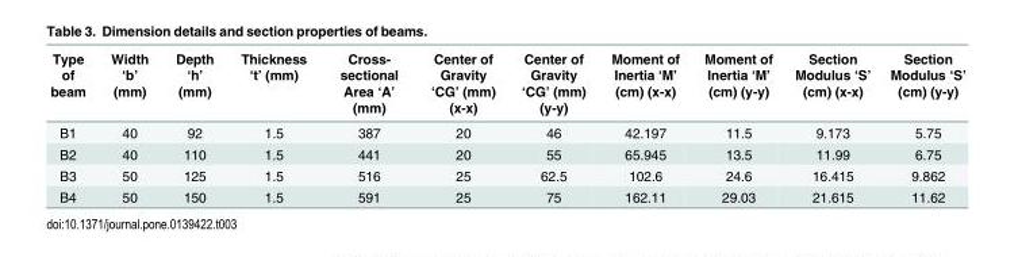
<table><thead><tr><td>Type of beam</td><td>Width ‘b’ (mm)</td><td>Depth ‘h’ (mm)</td><td>Thickness ‘t’ (mm)</td><td>Cross- sectional Area ‘A’ (mm)</td><td>Center of Gravity ‘CG’ (mm) (x-x)</td><td>Center of Gravity ‘CG’ (mm) (y-y)</td><td>Moment of Inertia ‘M’ (cm) (x-x)</td><td>Moment of Inertia ‘M’ (cm) (y-y)</td><td>Section Modulus ‘S’ (cm) (x-x)</td><td>Section Modulus ‘S’ (cm) (y-y)</td></tr></thead><tbody><tr><td>B1</td><td>40</td><td>92</td><td>1.5</td><td>387</td><td>20</td><td>46</td><td>42.197</td><td>11.5</td><td>9.173</td><td>5.75</td></tr><tr><td>B2</td><td>40</td><td>110</td><td>1.5</td><td>441</td><td>20</td><td>55</td><td>65.945</td><td>13.5</td><td>11.99</td><td>6.75</td></tr><tr><td>B3</td><td>50</td><td>125</td><td>1.5</td><td>516</td><td>25</td><td>62.5</td><td>102.6</td><td>24.6</td><td>16.415</td><td>9.862</td></tr><tr><td>B4</td><td>50</td><td>150</td><td>1.5</td><td>591</td><td>25</td><td>75</td><td>162.11</td><td>29.03</td><td>21.615</td><td>11.62</td></tr></tbody></table>